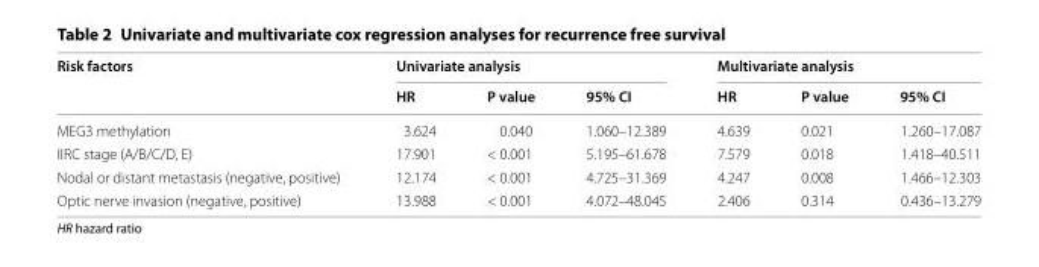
<table><thead><tr><td rowspan="2">Risk factors</td><td colspan="3">Univariate analysis</td><td colspan="3">Multivariate analysis</td></tr><tr><td>HR</td><td>P value</td><td>95% CI</td><td>HR</td><td>P value</td><td>95% CI</td></tr></thead><tbody><tr><td>MEG3 methylation</td><td>3.624</td><td>0.040</td><td>1.060–12.389</td><td>4.639</td><td>0.021</td><td>1.260–17.087</td></tr><tr><td>IIRC stage (A/B/C/D, E)</td><td>17.901</td><td>&lt; 0.001</td><td>5.195–61.678</td><td>7.579</td><td>0.018</td><td>1.418–40.511</td></tr><tr><td>Nodal or distant metastasis (negative, positive)</td><td>12.174</td><td>&lt; 0.001</td><td>4.725–31.369</td><td>4.247</td><td>0.008</td><td>1.466–12.303</td></tr><tr><td>Optic nerve invasion (negative, positive)</td><td>13.988</td><td>&lt; 0.001</td><td>4.072–48.045</td><td>2.406</td><td>0.314</td><td>0.436–13.279</td></tr></tbody></table>